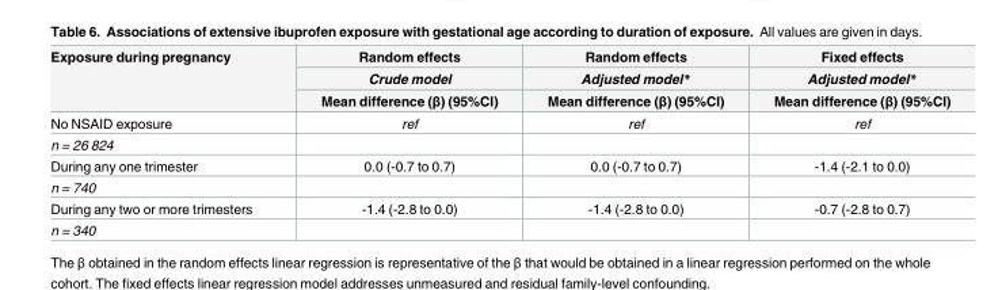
<table><thead><tr><td rowspan="3">Exposure during pregnancy</td><td rowspan="3">Random effects Crude model Mean difference (β) (95%CI)</td><td rowspan="3">Random effects Adjusted model* Mean difference (β) (95%CI)</td><td rowspan="3">Fixed effects Adjusted model* Mean difference (β) (95%CI)</td></tr><tr></tr><tr></tr></thead><tbody><tr><td>No NSAID exposure</td><td>ref</td><td>ref</td><td>ref</td></tr><tr><td colspan="4">n = 26 824</td></tr><tr><td>During any one trimester</td><td>0.0 (-0.7 to 0.7)</td><td>0.0 (-0.7 to 0.7)</td><td>-1.4 (-2.1 to 0.0)</td></tr><tr><td colspan="4">n = 740</td></tr><tr><td>During any two or more trimesters</td><td>-1.4 (-2.8 to 0.0)</td><td>-1.4 (-2.8 to 0.0)</td><td>-0.7 (-2.8 to 0.7)</td></tr><tr><td>n = 340</td><td></td><td></td><td></td></tr></tbody></table>